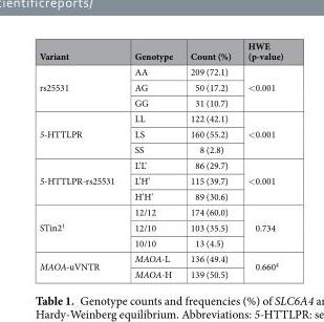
<table><thead><tr><td>Variant</td><td>Genotype</td><td>Count (%)</td><td>HWE (p-value)</td></tr></thead><tbody><tr><td rowspan="3">rs25531</td><td>AA</td><td>209 (72.1)</td><td rowspan="3">&lt;0.001</td></tr><tr><td>AG</td><td>50 (17.2)</td></tr><tr><td>GG</td><td>31 (10.7)</td></tr><tr><td rowspan="3">5-HTTLPR</td><td>LL</td><td>122 (42.1)</td><td rowspan="3">&lt;0.001</td></tr><tr><td>LS</td><td>160 (55.2)</td></tr><tr><td>SS</td><td>8 (2.8)</td></tr><tr><td rowspan="3">5-HTTLPR-rs25531</td><td>L’L’</td><td>86 (29.7)</td><td rowspan="3">&lt;0.001</td></tr><tr><td>L’H’</td><td>115 (39.7)</td></tr><tr><td>H’H’</td><td>89 (30.6)</td></tr><tr><td rowspan="3">STin2<sup>1</sup></td><td>12/12</td><td>174 (60.0)</td><td rowspan="3">0.734</td></tr><tr><td>12/10</td><td>103 (35.5)</td></tr><tr><td>10/10</td><td>13 (4.5)</td></tr><tr><td rowspan="2">MAOA-uVNTR</td><td>MAOA-L</td><td>136 (49.4)</td><td rowspan="2">0.660<sup>4</sup></td></tr><tr><td>MAOA-H</td><td>139 (50.5)</td></tr></tbody></table>